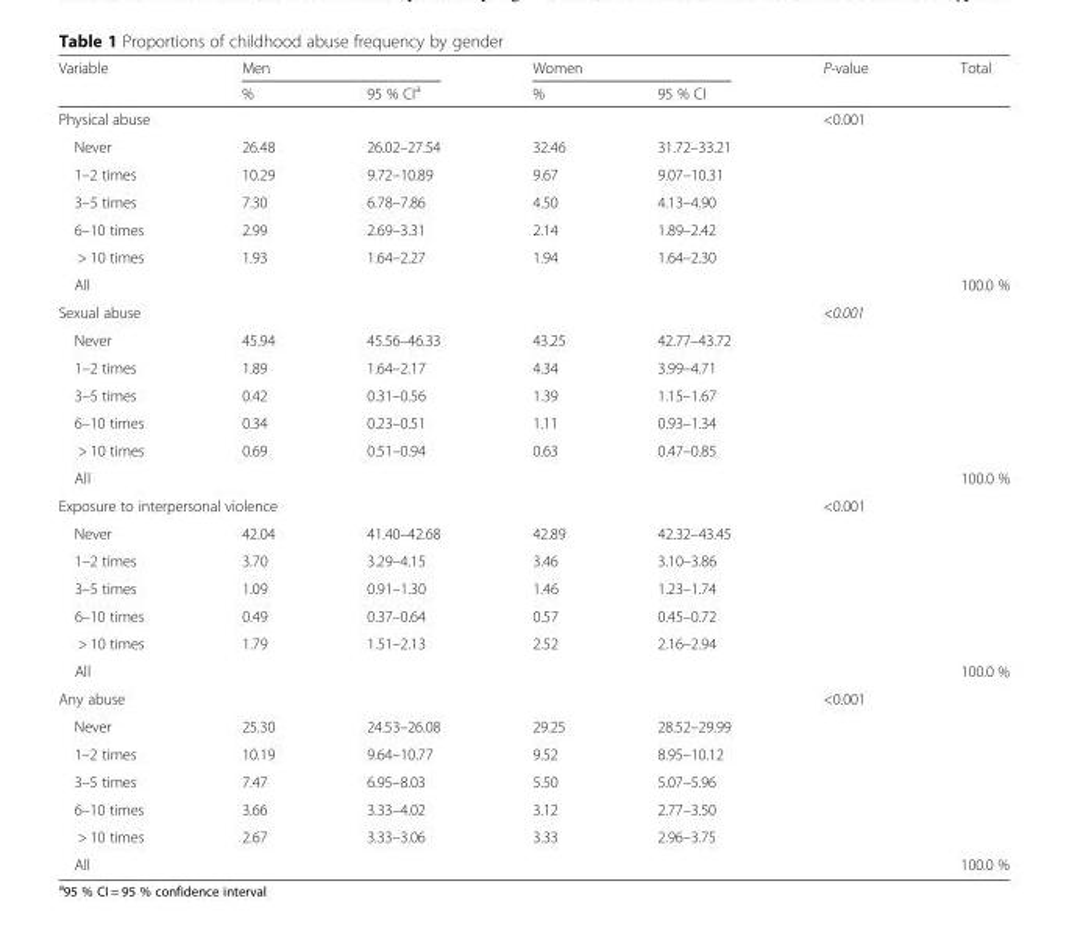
<table><thead><tr><td rowspan="2">Variable</td><td colspan="2">Men</td><td colspan="2">Women</td><td rowspan="2">P-value</td><td rowspan="2">Total</td></tr><tr><td>%</td><td>95 % CI<sup>a</sup></td><td>%</td><td>95 % CI</td></tr></thead><tbody><tr><td>Physical abuse</td><td></td><td></td><td></td><td></td><td>&lt;0.001</td><td></td></tr><tr><td>Never</td><td>26.48</td><td>26.02–27.54</td><td>32.46</td><td>31.72–33.21</td><td></td><td></td></tr><tr><td>1–2 times</td><td>10.29</td><td>9.72–10.89</td><td>9.67</td><td>9.07–10.31</td><td></td><td></td></tr><tr><td>3–5 times</td><td>7.30</td><td>6.78–7.86</td><td>4.50</td><td>4.13–4.90</td><td></td><td></td></tr><tr><td>6–10 times</td><td>2.99</td><td>2.69–3.31</td><td>2.14</td><td>1.89–2.42</td><td></td><td></td></tr><tr><td>&gt; 10 times</td><td>1.93</td><td>1.64–2.27</td><td>1.94</td><td>1.64–2.30</td><td></td><td></td></tr><tr><td>All</td><td></td><td></td><td></td><td></td><td></td><td>100.0 %</td></tr><tr><td>Sexual abuse</td><td></td><td></td><td></td><td></td><td>&lt;0.001</td><td></td></tr><tr><td>Never</td><td>45.94</td><td>45.56–46.33</td><td>43.25</td><td>42.77–43.72</td><td></td><td></td></tr><tr><td>1–2 times</td><td>1.89</td><td>1.64–2.17</td><td>4.34</td><td>3.99–4.71</td><td></td><td></td></tr><tr><td>3–5 times</td><td>0.42</td><td>0.31–0.56</td><td>1.39</td><td>1.15–1.67</td><td></td><td></td></tr><tr><td>6–10 times</td><td>0.34</td><td>0.23–0.51</td><td>1.11</td><td>0.93–1.34</td><td></td><td></td></tr><tr><td>&gt; 10 times</td><td>0.69</td><td>0.51–0.94</td><td>0.63</td><td>0.47–0.85</td><td></td><td></td></tr><tr><td>All</td><td></td><td></td><td></td><td></td><td></td><td>100.0 %</td></tr><tr><td colspan="3">Exposure to interpersonal violence</td><td></td><td></td><td>&lt;0.001</td><td></td></tr><tr><td>Never</td><td>42.04</td><td>41.40–42.68</td><td>42.89</td><td>42.32–43.45</td><td></td><td></td></tr><tr><td>1–2 times</td><td>3.70</td><td>3.29–4.15</td><td>3.46</td><td>3.10–3.86</td><td></td><td></td></tr><tr><td>3–5 times</td><td>1.09</td><td>0.91–1.30</td><td>1.46</td><td>1.23–1.74</td><td></td><td></td></tr><tr><td>6–10 times</td><td>0.49</td><td>0.37–0.64</td><td>0.57</td><td>0.45–0.72</td><td></td><td></td></tr><tr><td>&gt; 10 times</td><td>1.79</td><td>1.51–2.13</td><td>2.52</td><td>2.16–2.94</td><td></td><td></td></tr><tr><td>All</td><td></td><td></td><td></td><td></td><td></td><td>100.0 %</td></tr><tr><td>Any abuse</td><td></td><td></td><td></td><td></td><td>&lt;0.001</td><td></td></tr><tr><td>Never</td><td>25.30</td><td>24.53–26.08</td><td>29.25</td><td>28.52–29.99</td><td></td><td></td></tr><tr><td>1–2 times</td><td>10.19</td><td>9.64–10.77</td><td>9.52</td><td>8.95–10.12</td><td></td><td></td></tr><tr><td>3–5 times</td><td>7.47</td><td>6.95–8.03</td><td>5.50</td><td>5.07–5.96</td><td></td><td></td></tr><tr><td>6–10 times</td><td>3.66</td><td>3.33–4.02</td><td>3.12</td><td>2.77–3.50</td><td></td><td></td></tr><tr><td>&gt; 10 times</td><td>2.67</td><td>3.33–3.06</td><td>3.33</td><td>2.96–3.75</td><td></td><td></td></tr><tr><td>All</td><td></td><td></td><td></td><td></td><td></td><td>100.0 %</td></tr></tbody></table>